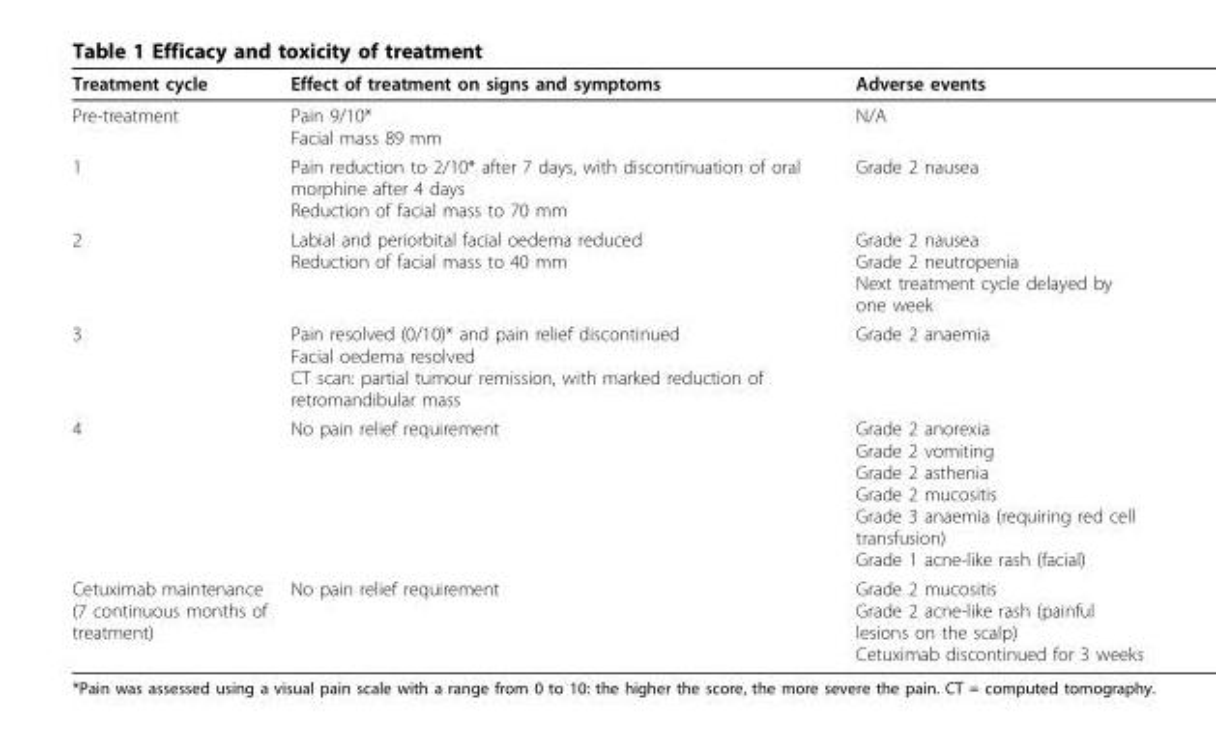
<table><thead><tr><td>Treatment cycle</td><td>Effect of treatment on signs and symptoms</td><td>Adverse events</td></tr></thead><tbody><tr><td>Pre-treatment</td><td>Pain 9/10* Facial mass 89 mm</td><td>N/A</td></tr><tr><td>1</td><td>Pain reduction to 2/10* after 7 days, with discontinuation of oral morphine after 4 days Reduction of facial mass to 70 mm</td><td>Grade 2 nausea</td></tr><tr><td>2</td><td>Labial and periorbital facial oedema reduced Reduction of facial mass to 40 mm</td><td>Grade 2 nausea Grade 2 neutropenia Next treatment cycle delayed by one week</td></tr><tr><td>3</td><td>Pain resolved (0/10)* and pain relief discontinued Facial oedema resolved CT scan: partial tumour remission, with marked reduction of retromandibular mass</td><td>Grade 2 anaemia</td></tr><tr><td>4</td><td>No pain relief requirement</td><td>Grade 2 anorexia Grade 2 vomiting Grade 2 asthenia Grade 2 mucositis Grade 3 anaemia (requiring red cell transfusion) Grade 1 acne-like rash (facial)</td></tr><tr><td>Cetuximab maintenance (7 continuous months of treatment)</td><td>No pain relief requirement</td><td>Grade 2 mucositis Grade 2 acne-like rash (painful lesions on the scalp) Cetuximab discontinued for 3 weeks</td></tr></tbody></table>